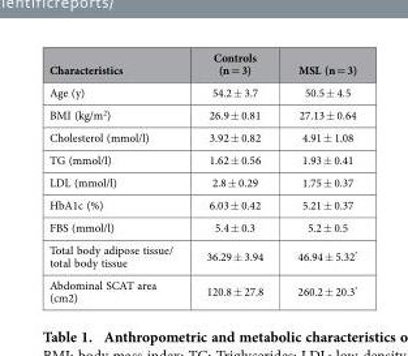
<table><thead><tr><td>Characteristics</td><td>Controls (n = 3)</td><td>MSL (n = 3)</td></tr></thead><tbody><tr><td>Age (y)</td><td>54.2 ± 3.7</td><td>50.5 ± 4.5</td></tr><tr><td>BMI (kg/m<sup>2</sup>)</td><td>26.9 ± 0.81</td><td>27.13 ± 0.64</td></tr><tr><td>Cholesterol (mmol/l)</td><td>3.92 ± 0.82</td><td>4.91 ± 1.08</td></tr><tr><td>TG (mmol/l)</td><td>1.62 ± 0.56</td><td>1.93 ± 0.41</td></tr><tr><td>LDL (mmol/l)</td><td>2.8 ± 0.29</td><td>1.75 ± 0.37</td></tr><tr><td>HbA1c (%)</td><td>6.03 ± 0.42</td><td>5.21 ± 0.37</td></tr><tr><td>FBS (mmol/l)</td><td>5.4 ± 0.3</td><td>5.2 ± 0.5</td></tr><tr><td>Total body adipose tissue/ total body tissue</td><td>36.29 ± 3.94</td><td>46.94 ± 5.32*</td></tr><tr><td>Abdominal SCAT area (cm2)</td><td>120.8 ± 27.8</td><td>260.2 ± 20.3*</td></tr></tbody></table>